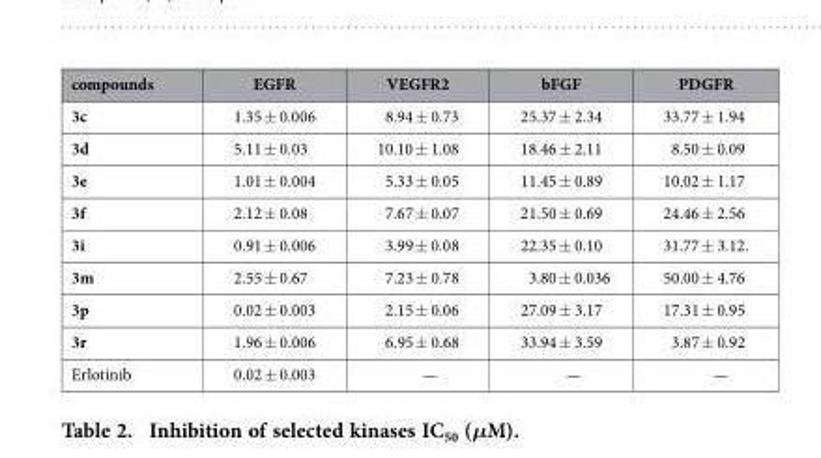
<table><thead><tr><td>compounds</td><td>EGFR</td><td>VEGFR2</td><td>bFGF</td><td>PDGFR</td></tr></thead><tbody><tr><td>3c</td><td>1.35 ± 0.006</td><td>8.94 ± 0.73</td><td>25.37 ± 2.34</td><td>33.77 ± 1.94</td></tr><tr><td>3d</td><td>5.11 ± 0.03</td><td>10.10 ± 1.08</td><td>18.46 ± 2.11</td><td>8.50 ± 0.09</td></tr><tr><td>3e</td><td>1.01 ± 0.004</td><td>5.33 ± 0.05</td><td>11.45 ± 0.89</td><td>10.02 ± 1.17</td></tr><tr><td>3f</td><td>2.12 ± 0.08</td><td>7.67 ± 0.07</td><td>21.50 ± 0.69</td><td>24.46 ± 2.56</td></tr><tr><td>3i</td><td>0.91 ± 0.006</td><td>3.99 ± 0.08</td><td>22.35 ± 0.10</td><td>31.77 ± 3.12.</td></tr><tr><td>3m</td><td>2.55 ± 0.67</td><td>7.23 ± 0.78</td><td>3.80 ± 0.036</td><td>50.00 ± 4.76</td></tr><tr><td>3p</td><td>0.02 ± 0.003</td><td>2.15 ± 0.06</td><td>27.09 ± 3.17</td><td>17.31 ± 0.95</td></tr><tr><td>3r</td><td>1.96 ± 0.006</td><td>6.95 ± 0.68</td><td>33.94 ± 3.59</td><td>3.87 ± 0.92</td></tr><tr><td>Erlotinib</td><td>0.02 ± 0.003</td><td>—</td><td>—</td><td>—</td></tr></tbody></table>